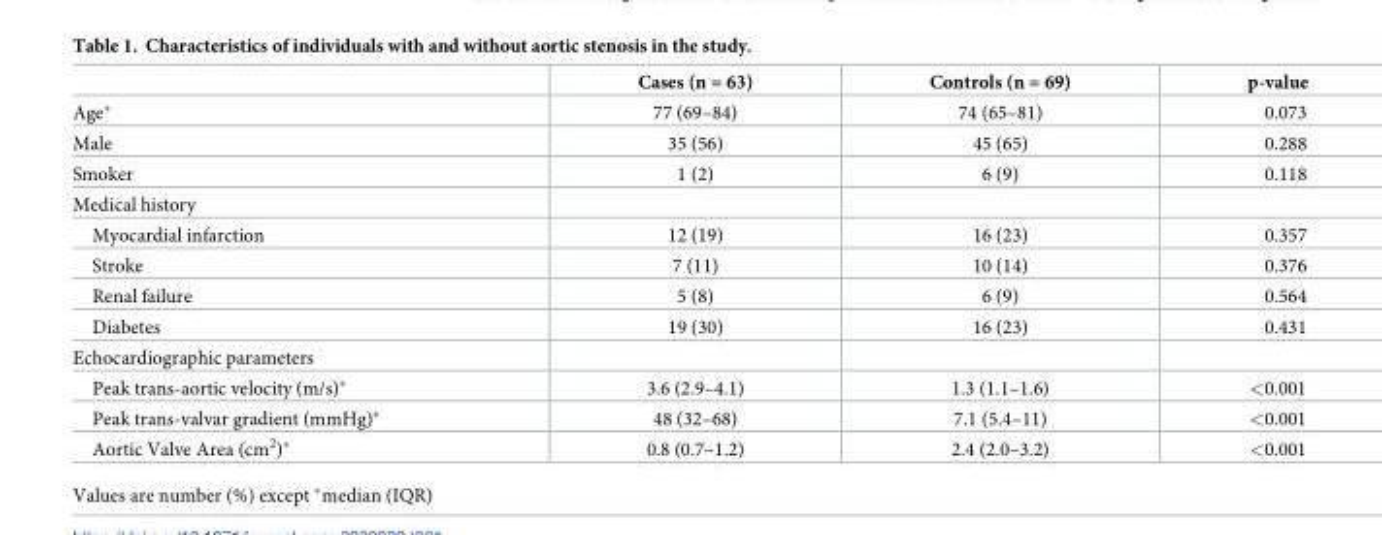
<table><thead><tr><td></td><td>Cases (n = 63)</td><td>Controls (n = 69)</td><td>p-value</td></tr></thead><tbody><tr><td>Age*</td><td>77 (69–84)</td><td>74 (65–81)</td><td>0.073</td></tr><tr><td>Male</td><td>35 (56)</td><td>45 (65)</td><td>0.288</td></tr><tr><td>Smoker</td><td>1 (2)</td><td>6 (9)</td><td>0.118</td></tr><tr><td colspan="4">Medical history</td></tr><tr><td>Myocardial infarction</td><td>12 (19)</td><td>16 (23)</td><td>0.357</td></tr><tr><td>Stroke</td><td>7 (11)</td><td>10 (14)</td><td>0.376</td></tr><tr><td>Renal failure</td><td>5 (8)</td><td>6 (9)</td><td>0.564</td></tr><tr><td>Diabetes</td><td>19 (30)</td><td>16 (23)</td><td>0.431</td></tr><tr><td colspan="4">Echocardiographic parameters</td></tr><tr><td>Peak trans-aortic velocity (m/s)*</td><td>3.6 (2.9–4.1)</td><td>1.3 (1.1–1.6)</td><td>&lt;0.001</td></tr><tr><td>Peak trans-valvar gradient (mmHg)*</td><td>48 (32–68)</td><td>7.1 (5.4–11)</td><td>&lt;0.001</td></tr><tr><td>Aortic Valve Area (cm<sup>2</sup>)*</td><td>0.8 (0.7–1.2)</td><td>2.4 (2.0–3.2)</td><td>&lt;0.001</td></tr></tbody></table>